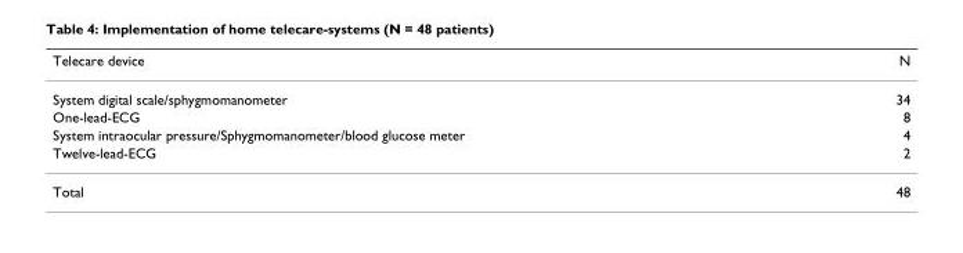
<table><thead><tr><td>Telecare device</td><td>N</td></tr></thead><tbody><tr><td>System digital scale/sphygmomanometer</td><td>34</td></tr><tr><td>One-lead-ECG</td><td>8</td></tr><tr><td>System intraocular pressure/Sphygmomanometer/blood glucose meter</td><td>4</td></tr><tr><td>Twelve-lead-ECG</td><td>2</td></tr><tr><td>Total</td><td>48</td></tr></tbody></table>